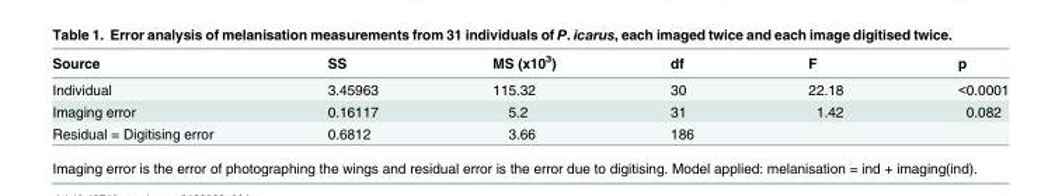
<table><thead><tr><td>Source</td><td>SS</td><td>MS (x10<sup>3</sup>)</td><td>df</td><td>F</td><td>p</td></tr></thead><tbody><tr><td>Individual</td><td>3.45963</td><td>115.32</td><td>30</td><td>22.18</td><td>&lt;0.0001</td></tr><tr><td>Imaging error</td><td>0.16117</td><td>5.2</td><td>31</td><td>1.42</td><td>0.082</td></tr><tr><td>Residual = Digitising error</td><td>0.6812</td><td>3.66</td><td>186</td><td></td><td></td></tr></tbody></table>